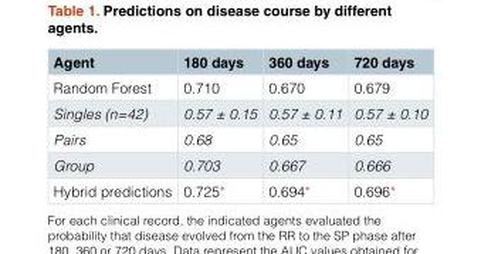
<table><thead><tr><td>Agent</td><td>180 days</td><td>360 days</td><td>720 days</td></tr></thead><tbody><tr><td>Random Forest</td><td>0.710</td><td>0.670</td><td>0.679</td></tr><tr><td>Singles (n=42)</td><td>0.57 ± 0.15</td><td>0.57 ± 0.11</td><td>0.57 ± 0.10</td></tr><tr><td>Pairs</td><td>0.68</td><td>0.65</td><td>0.65</td></tr><tr><td>Group</td><td>0.703</td><td>0.667</td><td>0.666</td></tr><tr><td>Hybrid predictions</td><td>0.725*</td><td>0.694*</td><td>0.696*</td></tr></tbody></table>